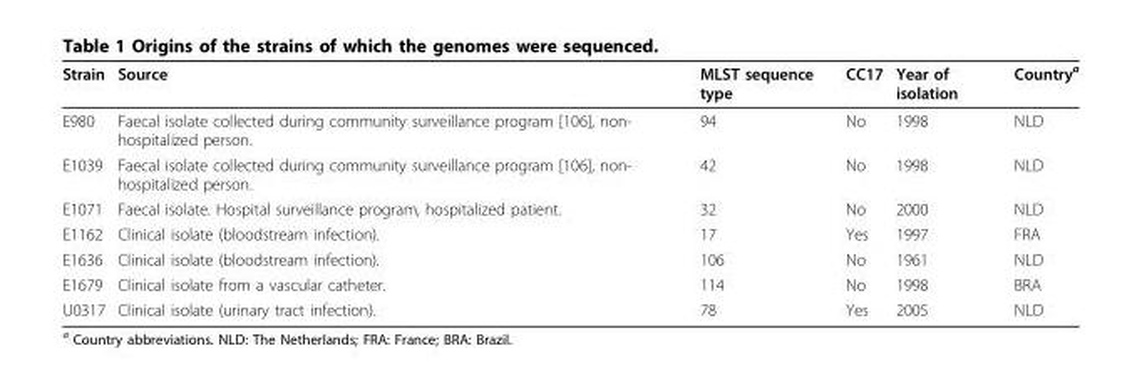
<table><thead><tr><td>Strain</td><td>Source</td><td>MLST sequence type</td><td>CC17</td><td>Year of isolation</td><td>Country<sup>a</sup></td></tr></thead><tbody><tr><td>E980</td><td>Faecal isolate collected during community surveillance program [106], non- hospitalized person.</td><td>94</td><td>No</td><td>1998</td><td>NLD</td></tr><tr><td>E1039</td><td>Faecal isolate collected during community surveillance program [106], non- hospitalized person.</td><td>42</td><td>No</td><td>1998</td><td>NLD</td></tr><tr><td>E1071</td><td>Faecal isolate. Hospital surveillance program, hospitalized patient.</td><td>32</td><td>No</td><td>2000</td><td>NLD</td></tr><tr><td>E1162</td><td>Clinical isolate (bloodstream infection).</td><td>17</td><td>Yes</td><td>1997</td><td>FRA</td></tr><tr><td>E1636</td><td>Clinical isolate (bloodstream infection).</td><td>106</td><td>No</td><td>1961</td><td>NLD</td></tr><tr><td>E1679</td><td>Clinical isolate from a vascular catheter.</td><td>114</td><td>No</td><td>1998</td><td>BRA</td></tr><tr><td>U0317</td><td>Clinical isolate (urinary tract infection).</td><td>78</td><td>Yes</td><td>2005</td><td>NLD</td></tr></tbody></table>